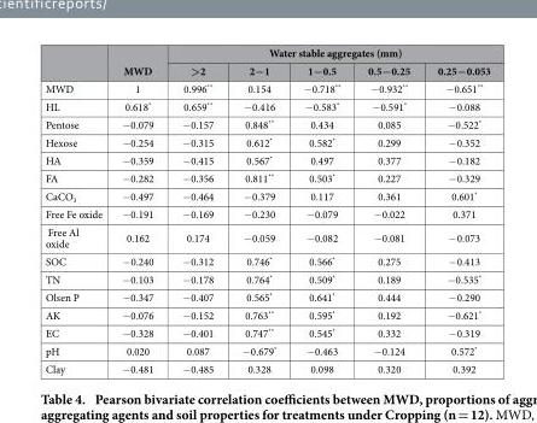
<table><thead><tr><td rowspan="2"></td><td rowspan="2">MWD</td><td colspan="5">Water stable aggregates (mm)</td></tr><tr><td>&gt;2</td><td>2−1</td><td>1−0.5</td><td>0.5−0.25</td><td>0.25−0.053</td></tr></thead><tbody><tr><td>MWD</td><td>1</td><td>0.996**</td><td>0.154</td><td>− 0.718**</td><td>− 0.932**</td><td>− 0.651**</td></tr><tr><td>HL</td><td>0.618*</td><td>0.659**</td><td>− 0.416</td><td>− 0.583*</td><td>− 0.591*</td><td>− 0.088</td></tr><tr><td>Pentose</td><td>− 0.079</td><td>− 0.157</td><td>0.848**</td><td>0.434</td><td>0.085</td><td>− 0.522*</td></tr><tr><td>Hexose</td><td>− 0.254</td><td>− 0.315</td><td>0.612*</td><td>0.582*</td><td>0.299</td><td>− 0.352</td></tr><tr><td>HA</td><td>− 0.359</td><td>− 0.415</td><td>0.567*</td><td>0.497</td><td>0.377</td><td>− 0.182</td></tr><tr><td>FA</td><td>− 0.282</td><td>− 0.356</td><td>0.811**</td><td>0.503*</td><td>0.227</td><td>− 0.329</td></tr><tr><td>CaCO<sub>3</sub></td><td>− 0.497</td><td>− 0.464</td><td>− 0.379</td><td>0.117</td><td>0.361</td><td>0.601*</td></tr><tr><td>Free Fe oxide</td><td>− 0.191</td><td>− 0.169</td><td>− 0.230</td><td>− 0.079</td><td>− 0.022</td><td>0.371</td></tr><tr><td>Free Al oxide</td><td>0.162</td><td>0.174</td><td>− 0.059</td><td>− 0.082</td><td>− 0.081</td><td>− 0.073</td></tr><tr><td>SOC</td><td>− 0.240</td><td>− 0.312</td><td>0.746*</td><td>0.566*</td><td>0.275</td><td>− 0.413</td></tr><tr><td>TN</td><td>− 0.103</td><td>− 0.178</td><td>0.764*</td><td>0.509*</td><td>0.189</td><td>− 0.535*</td></tr><tr><td>Olsen P</td><td>− 0.347</td><td>− 0.407</td><td>0.565*</td><td>0.641*</td><td>0.444</td><td>− 0.290</td></tr><tr><td>AK</td><td>− 0.076</td><td>− 0.152</td><td>0.763**</td><td>0.595*</td><td>0.192</td><td>− 0.621*</td></tr><tr><td>EC</td><td>− 0.328</td><td>− 0.401</td><td>0.747**</td><td>0.545*</td><td>0.332</td><td>− 0.319</td></tr><tr><td>pH</td><td>0.020</td><td>0.087</td><td>− 0.679*</td><td>− 0.463</td><td>− 0.124</td><td>0.572*</td></tr><tr><td>Clay</td><td>− 0.481</td><td>− 0.485</td><td>0.328</td><td>0.098</td><td>0.320</td><td>0.392</td></tr></tbody></table>